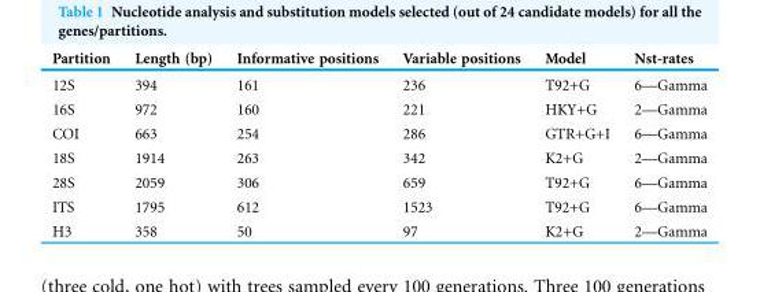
<table><thead><tr><td>Partition</td><td>Length (bp)</td><td>Informative positions</td><td>Variable positions</td><td>Model</td><td>Nst-rates</td></tr></thead><tbody><tr><td>12S</td><td>394</td><td>161</td><td>236</td><td>T92+G</td><td>6—Gamma</td></tr><tr><td>16S</td><td>972</td><td>160</td><td>221</td><td>HKY+G</td><td>2—Gamma</td></tr><tr><td>COI</td><td>663</td><td>254</td><td>286</td><td>GTR+G+I</td><td>6—Gamma</td></tr><tr><td>18S</td><td>1914</td><td>263</td><td>342</td><td>K2+G</td><td>2—Gamma</td></tr><tr><td>28S</td><td>2059</td><td>306</td><td>659</td><td>T92+G</td><td>6—Gamma</td></tr><tr><td>ITS</td><td>1795</td><td>612</td><td>1523</td><td>T92+G</td><td>6—Gamma</td></tr><tr><td>H3</td><td>358</td><td>50</td><td>97</td><td>K2+G</td><td>2—Gamma</td></tr></tbody></table>